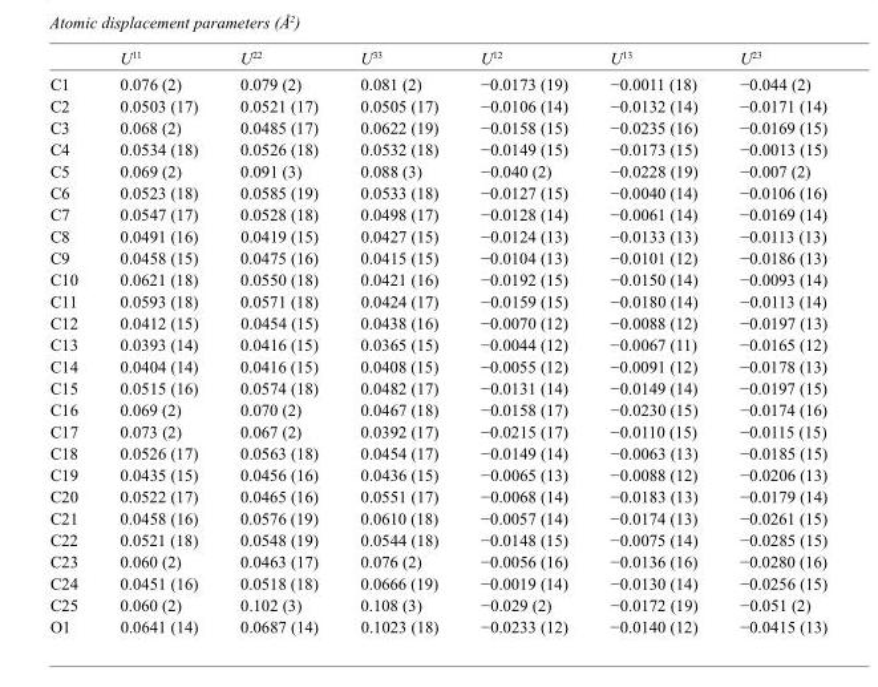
<table><thead><tr><td></td><td>U<sup>11</sup></td><td>U<sup>22</sup></td><td>U<sup>33</sup></td><td>U<sup>12</sup></td><td>U<sup>13</sup></td><td>U<sup>23</sup></td></tr></thead><tbody><tr><td>C1</td><td>0.076 (2)</td><td>0.079 (2)</td><td>0.081 (2)</td><td>−0.0173 (19)</td><td>−0.0011 (18)</td><td>−0.044 (2)</td></tr><tr><td>C2</td><td>0.0503 (17)</td><td>0.0521 (17)</td><td>0.0505 (17)</td><td>−0.0106 (14)</td><td>−0.0132 (14)</td><td>−0.0171 (14)</td></tr><tr><td>C3</td><td>0.068 (2)</td><td>0.0485 (17)</td><td>0.0622 (19)</td><td>−0.0158 (15)</td><td>−0.0235 (16)</td><td>−0.0169 (15)</td></tr><tr><td>C4</td><td>0.0534 (18)</td><td>0.0526 (18)</td><td>0.0532 (18)</td><td>−0.0149 (15)</td><td>−0.0173 (15)</td><td>−0.0013 (15)</td></tr><tr><td>C5</td><td>0.069 (2)</td><td>0.091 (3)</td><td>0.088 (3)</td><td>−0.040 (2)</td><td>−0.0228 (19)</td><td>−0.007 (2)</td></tr><tr><td>C6</td><td>0.0523 (18)</td><td>0.0585 (19)</td><td>0.0533 (18)</td><td>−0.0127 (15)</td><td>−0.0040 (14)</td><td>−0.0106 (16)</td></tr><tr><td>C7</td><td>0.0547 (17)</td><td>0.0528 (18)</td><td>0.0498 (17)</td><td>−0.0128 (14)</td><td>−0.0061 (14)</td><td>−0.0169 (14)</td></tr><tr><td>C8</td><td>0.0491 (16)</td><td>0.0419 (15)</td><td>0.0427 (15)</td><td>−0.0124 (13)</td><td>−0.0133 (13)</td><td>−0.0113 (13)</td></tr><tr><td>C9</td><td>0.0458 (15)</td><td>0.0475 (16)</td><td>0.0415 (15)</td><td>−0.0104 (13)</td><td>−0.0101 (12)</td><td>−0.0186 (13)</td></tr><tr><td>C10</td><td>0.0621 (18)</td><td>0.0550 (18)</td><td>0.0421 (16)</td><td>−0.0192 (15)</td><td>−0.0150 (14)</td><td>−0.0093 (14)</td></tr><tr><td>C11</td><td>0.0593 (18)</td><td>0.0571 (18)</td><td>0.0424 (17)</td><td>−0.0159 (15)</td><td>−0.0180 (14)</td><td>−0.0113 (14)</td></tr><tr><td>C12</td><td>0.0412 (15)</td><td>0.0454 (15)</td><td>0.0438 (16)</td><td>−0.0070 (12)</td><td>−0.0088 (12)</td><td>−0.0197 (13)</td></tr><tr><td>C13</td><td>0.0393 (14)</td><td>0.0416 (15)</td><td>0.0365 (15)</td><td>−0.0044 (12)</td><td>−0.0067 (11)</td><td>−0.0165 (12)</td></tr><tr><td>C14</td><td>0.0404 (14)</td><td>0.0416 (15)</td><td>0.0408 (15)</td><td>−0.0055 (12)</td><td>−0.0091 (12)</td><td>−0.0178 (13)</td></tr><tr><td>C15</td><td>0.0515 (16)</td><td>0.0574 (18)</td><td>0.0482 (17)</td><td>−0.0131 (14)</td><td>−0.0149 (14)</td><td>−0.0197 (15)</td></tr><tr><td>C16</td><td>0.069 (2)</td><td>0.070 (2)</td><td>0.0467 (18)</td><td>−0.0158 (17)</td><td>−0.0230 (15)</td><td>−0.0174 (16)</td></tr><tr><td>C17</td><td>0.073 (2)</td><td>0.067 (2)</td><td>0.0392 (17)</td><td>−0.0215 (17)</td><td>−0.0110 (15)</td><td>−0.0115 (15)</td></tr><tr><td>C18</td><td>0.0526 (17)</td><td>0.0563 (18)</td><td>0.0454 (17)</td><td>−0.0149 (14)</td><td>−0.0063 (13)</td><td>−0.0185 (15)</td></tr><tr><td>C19</td><td>0.0435 (15)</td><td>0.0456 (16)</td><td>0.0436 (15)</td><td>−0.0065 (13)</td><td>−0.0088 (12)</td><td>−0.0206 (13)</td></tr><tr><td>C20</td><td>0.0522 (17)</td><td>0.0465 (16)</td><td>0.0551 (17)</td><td>−0.0068 (14)</td><td>−0.0183 (13)</td><td>−0.0179 (14)</td></tr><tr><td>C21</td><td>0.0458 (16)</td><td>0.0576 (19)</td><td>0.0610 (18)</td><td>−0.0057 (14)</td><td>−0.0174 (13)</td><td>−0.0261 (15)</td></tr><tr><td>C22</td><td>0.0521 (18)</td><td>0.0548 (19)</td><td>0.0544 (18)</td><td>−0.0148 (15)</td><td>−0.0075 (14)</td><td>−0.0285 (15)</td></tr><tr><td>C23</td><td>0.060 (2)</td><td>0.0463 (17)</td><td>0.076 (2)</td><td>−0.0056 (16)</td><td>−0.0136 (16)</td><td>−0.0280 (16)</td></tr><tr><td>C24</td><td>0.0451 (16)</td><td>0.0518 (18)</td><td>0.0666 (19)</td><td>−0.0019 (14)</td><td>−0.0130 (14)</td><td>−0.0256 (15)</td></tr><tr><td>C25</td><td>0.060 (2)</td><td>0.102 (3)</td><td>0.108 (3)</td><td>−0.029 (2)</td><td>−0.0172 (19)</td><td>−0.051 (2)</td></tr><tr><td>O1</td><td>0.0641 (14)</td><td>0.0687 (14)</td><td>0.1023 (18)</td><td>−0.0233 (12)</td><td>−0.0140 (12)</td><td>−0.0415 (13)</td></tr></tbody></table>